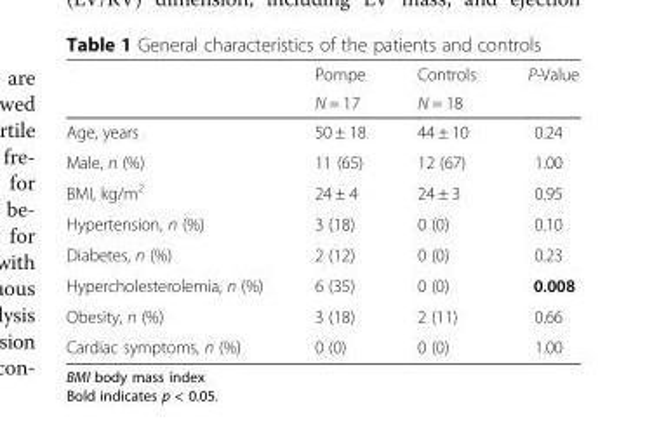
<table><thead><tr><td rowspan="2"></td><td rowspan="2">Pompe N = 17</td><td rowspan="2">Controls N = 18</td><td rowspan="2">P-Value</td></tr><tr></tr></thead><tbody><tr><td>Age, years</td><td>50 ± 18</td><td>44 ± 10</td><td>0.24</td></tr><tr><td>Male, n (%)</td><td>11 (65)</td><td>12 (67)</td><td>1.00</td></tr><tr><td>BMI, kg/m<sup>2</sup></td><td>24 ± 4</td><td>24 ± 3</td><td>0.95</td></tr><tr><td>Hypertension, n (%)</td><td>3 (18)</td><td>0 (0)</td><td>0.10</td></tr><tr><td>Diabetes, n (%)</td><td>2 (12)</td><td>0 (0)</td><td>0.23</td></tr><tr><td>Hypercholesterolemia, n (%)</td><td>6 (35)</td><td>0 (0)</td><td>0.008</td></tr><tr><td>Obesity, n (%)</td><td>3 (18)</td><td>2 (11)</td><td>0.66</td></tr><tr><td>Cardiac symptoms, n (%)</td><td>0 (0)</td><td>0 (0)</td><td>1.00</td></tr></tbody></table>